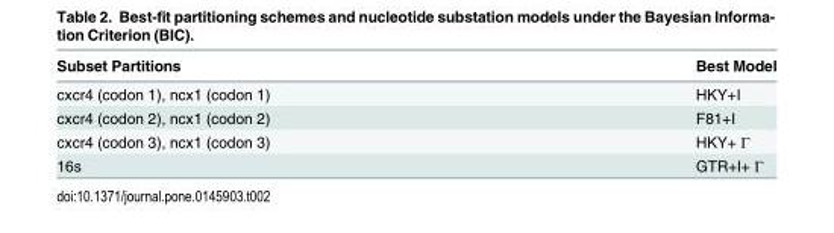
<table><thead><tr><td>Subset Partitions</td><td>Best Model</td></tr></thead><tbody><tr><td>cxcr4 (codon 1), ncx1 (codon 1)</td><td>HKY+I</td></tr><tr><td>cxcr4 (codon 2), ncx1 (codon 2)</td><td>F81+I</td></tr><tr><td>cxcr4 (codon 3), ncx1 (codon 3)</td><td>HKY+ Γ</td></tr><tr><td>16s</td><td>GTR+I+ Γ</td></tr></tbody></table>